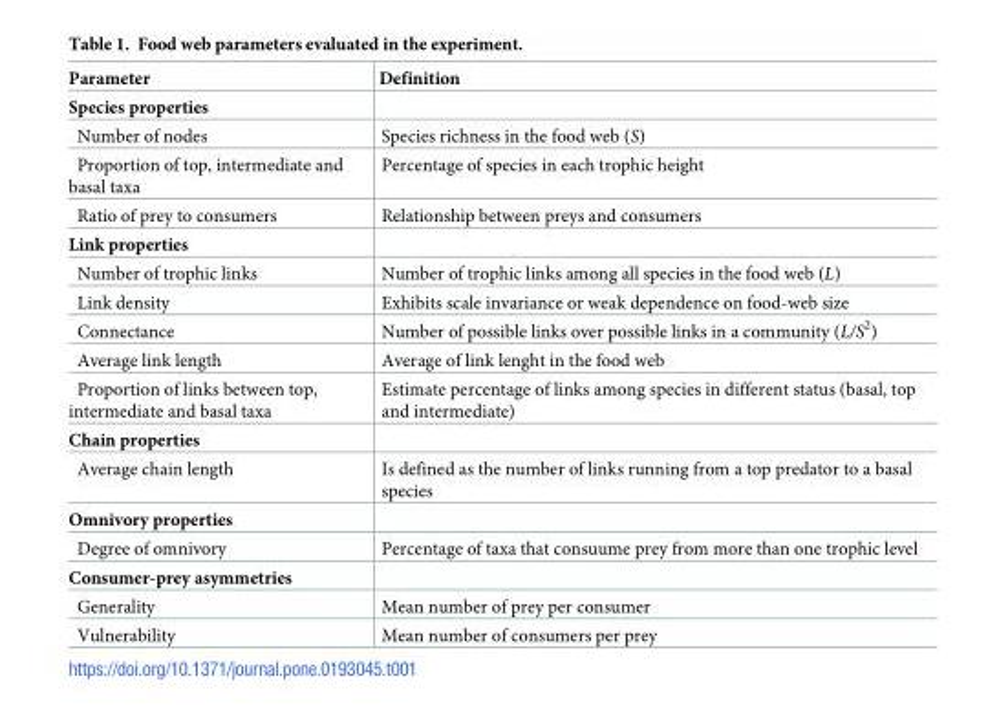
<table><thead><tr><td>Parameter</td><td>Definition</td></tr></thead><tbody><tr><td colspan="2">Species properties</td></tr><tr><td>Number of nodes</td><td>Species richness in the food web (S)</td></tr><tr><td>Proportion of top, intermediate and basal taxa</td><td>Percentage of species in each trophic height</td></tr><tr><td>Ratio of prey to consumers</td><td>Relationship between preys and consumers</td></tr><tr><td colspan="2">Link properties</td></tr><tr><td>Number of trophic links</td><td>Number of trophic links among all species in the food web (L)</td></tr><tr><td>Link density</td><td>Exhibits scale invariance or weak dependence on food-web size</td></tr><tr><td>Connectance</td><td>Number of possible links over possible links in a community (L/S<sup>2</sup>)</td></tr><tr><td>Average link length</td><td>Average of link lenght in the food web</td></tr><tr><td>Proportion of links between top, intermediate and basal taxa</td><td>Estimate percentage of links among species in different status (basal, top and intermediate)</td></tr><tr><td colspan="2">Chain properties</td></tr><tr><td>Average chain length</td><td>Is defined as the number of links running from a top predator to a basal species</td></tr><tr><td colspan="2">Omnivory properties</td></tr><tr><td>Degree of omnivory</td><td>Percentage of taxa that consuume prey from more than one trophic level</td></tr><tr><td colspan="2">Consumer-prey asymmetries</td></tr><tr><td>Generality</td><td>Mean number of prey per consumer</td></tr><tr><td>Vulnerability</td><td>Mean number of consumers per prey</td></tr></tbody></table>